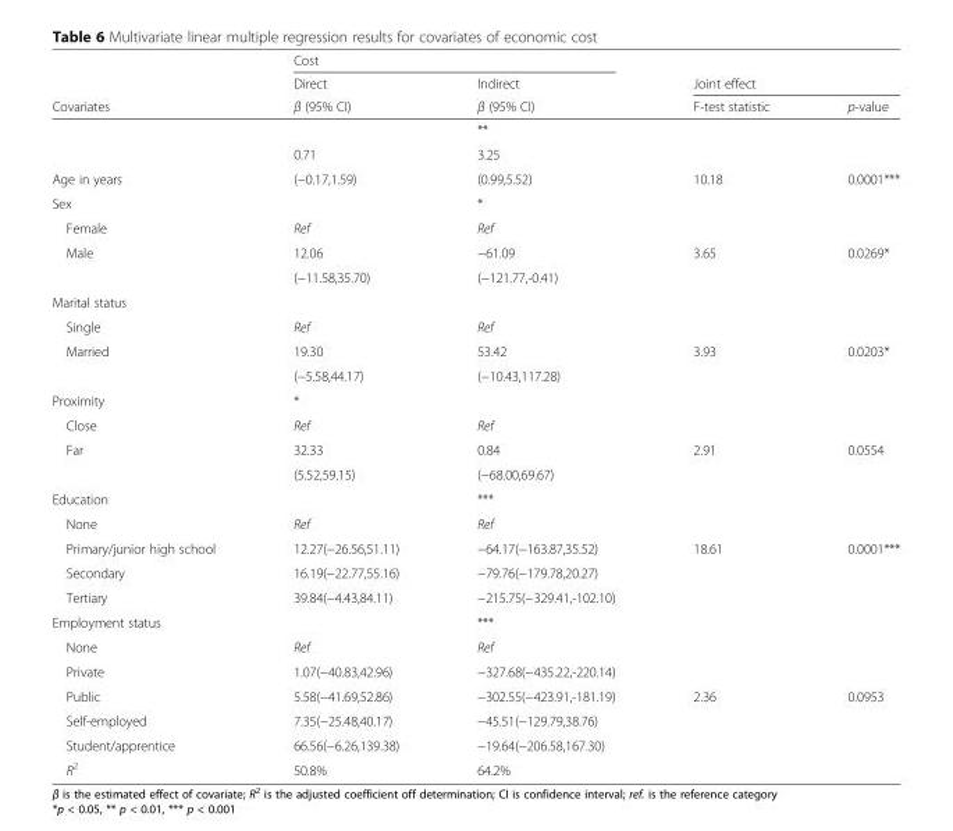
<table><thead><tr><td rowspan="3">Covariates</td><td colspan="2">Cost</td><td></td><td></td></tr><tr><td rowspan="2">Direct β (95% CI)</td><td rowspan="2">Indirect β (95% CI)</td><td colspan="2">Joint effect</td></tr><tr><td>F-test statistic</td><td>p-value</td></tr></thead><tbody><tr><td></td><td></td><td>**</td><td></td><td></td></tr><tr><td></td><td>0.71</td><td>3.25</td><td></td><td></td></tr><tr><td>Age in years</td><td>(−0.17,1.59)</td><td>(0.99,5.52)</td><td>10.18</td><td>0.0001***</td></tr><tr><td>Sex</td><td></td><td>*</td><td></td><td></td></tr><tr><td>Female</td><td>Ref</td><td>Ref</td><td></td><td></td></tr><tr><td rowspan="2">Male</td><td>12.06</td><td>−61.09</td><td>3.65</td><td>0.0269*</td></tr><tr><td>(−11.58,35.70)</td><td>(−121.77,-0.41)</td><td></td><td></td></tr><tr><td colspan="5">Marital status</td></tr><tr><td>Single</td><td>Ref</td><td>Ref</td><td></td><td></td></tr><tr><td rowspan="2">Married</td><td>19.30</td><td>53.42</td><td>3.93</td><td>0.0203*</td></tr><tr><td>(−5.58,44.17)</td><td>(−10.43,117.28)</td><td></td><td></td></tr><tr><td>Proximity</td><td>*</td><td></td><td></td><td></td></tr><tr><td>Close</td><td>Ref</td><td>Ref</td><td></td><td></td></tr><tr><td rowspan="2">Far</td><td>32.33</td><td>0.84</td><td>2.91</td><td>0.0554</td></tr><tr><td>(5.52,59.15)</td><td>(−68.00,69.67)</td><td></td><td></td></tr><tr><td>Education</td><td></td><td>***</td><td></td><td></td></tr><tr><td>None</td><td>Ref</td><td>Ref</td><td></td><td></td></tr><tr><td>Primary/junior high school</td><td>12.27(−26.56,51.11)</td><td>−64.17(−163.87,35.52)</td><td>18.61</td><td>0.0001***</td></tr><tr><td>Secondary</td><td>16.19(−22.77,55.16)</td><td>−79.76(−179.78,20.27)</td><td></td><td></td></tr><tr><td>Tertiary</td><td>39.84(−4.43,84.11)</td><td>−215.75(−329.41,-102.10)</td><td></td><td></td></tr><tr><td>Employment status</td><td></td><td>***</td><td></td><td></td></tr><tr><td>None</td><td>Ref</td><td>Ref</td><td></td><td></td></tr><tr><td>Private</td><td>1.07(−40.83,42.96)</td><td>−327.68(−435.22,-220.14)</td><td></td><td></td></tr><tr><td>Public</td><td>5.58(−41.69,52.86)</td><td>−302.55(−423.91,-181.19)</td><td>2.36</td><td>0.0953</td></tr><tr><td>Self-employed</td><td>7.35(−25.48,40.17)</td><td>−45.51(−129.79,38.76)</td><td></td><td></td></tr><tr><td>Student/apprentice</td><td>66.56(−6.26,139.38)</td><td>−19.64(−206.58,167.30)</td><td></td><td></td></tr><tr><td>R<sup>2</sup></td><td>50.8%</td><td>64.2%</td><td></td><td></td></tr></tbody></table>